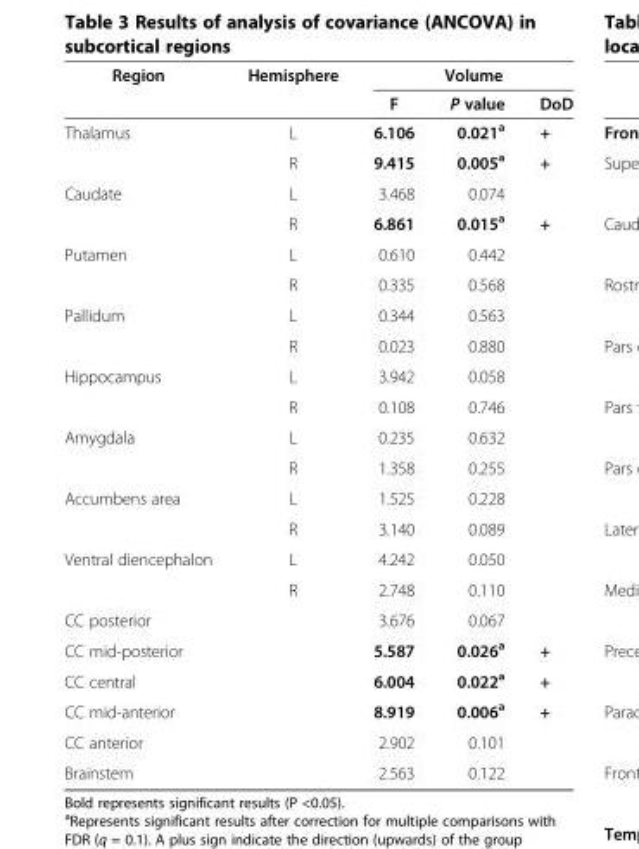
<table><thead><tr><td rowspan="2">Region</td><td rowspan="2">Hemisphere</td><td colspan="3">Volume</td></tr><tr><td>F</td><td>P value</td><td>DoD</td></tr></thead><tbody><tr><td rowspan="2">Thalamus</td><td>L</td><td>6.106</td><td>0.021<sup>a</sup></td><td>+</td></tr><tr><td>R</td><td>9.415</td><td>0.005<sup>a</sup></td><td>+</td></tr><tr><td rowspan="2">Caudate</td><td>L</td><td>3.468</td><td>0.074</td><td></td></tr><tr><td>R</td><td>6.861</td><td>0.015<sup>a</sup></td><td>+</td></tr><tr><td rowspan="2">Putamen</td><td>L</td><td>0.610</td><td>0.442</td><td></td></tr><tr><td>R</td><td>0.335</td><td>0.568</td><td></td></tr><tr><td rowspan="2">Pallidum</td><td>L</td><td>0.344</td><td>0.563</td><td></td></tr><tr><td>R</td><td>0.023</td><td>0.880</td><td></td></tr><tr><td rowspan="2">Hippocampus</td><td>L</td><td>3.942</td><td>0.058</td><td></td></tr><tr><td>R</td><td>0.108</td><td>0.746</td><td></td></tr><tr><td rowspan="2">Amygdala</td><td>L</td><td>0.235</td><td>0.632</td><td></td></tr><tr><td>R</td><td>1.358</td><td>0.255</td><td></td></tr><tr><td rowspan="2">Accumbens area</td><td>L</td><td>1.525</td><td>0.228</td><td></td></tr><tr><td>R</td><td>3.140</td><td>0.089</td><td></td></tr><tr><td rowspan="2">Ventral diencephalon</td><td>L</td><td>4.242</td><td>0.050</td><td></td></tr><tr><td>R</td><td>2.748</td><td>0.110</td><td></td></tr><tr><td>CC posterior</td><td></td><td>3.676</td><td>0.067</td><td></td></tr><tr><td>CC mid-posterior</td><td></td><td>5.587</td><td>0.026<sup>a</sup></td><td>+</td></tr><tr><td>CC central</td><td></td><td>6.004</td><td>0.022<sup>a</sup></td><td>+</td></tr><tr><td>CC mid-anterior</td><td></td><td>8.919</td><td>0.006<sup>a</sup></td><td>+</td></tr><tr><td>CC anterior</td><td></td><td>2.902</td><td>0.101</td><td></td></tr><tr><td>Brainstem</td><td></td><td>2.563</td><td>0.122</td><td></td></tr></tbody></table>